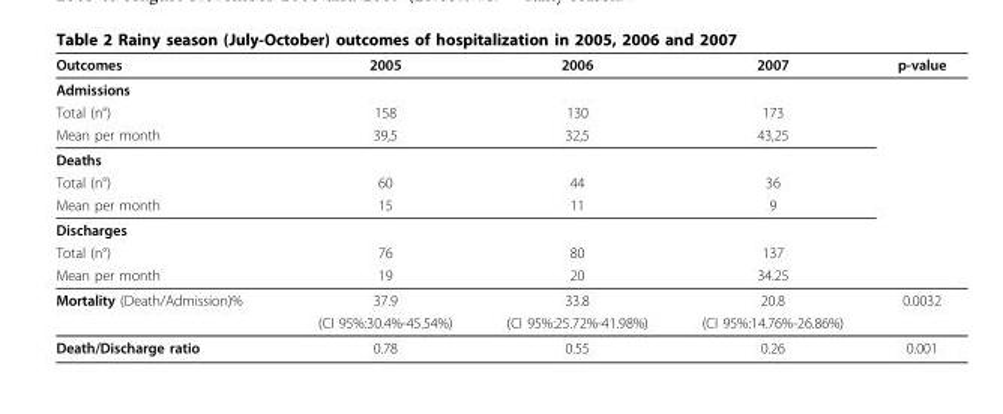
<table><thead><tr><td>Outcomes</td><td>2005</td><td>2006</td><td>2007</td><td>p-value</td></tr></thead><tbody><tr><td colspan="5">Admissions</td></tr><tr><td>Total (n°)</td><td>158</td><td>130</td><td>173</td><td></td></tr><tr><td>Mean per month</td><td>39,5</td><td>32,5</td><td>43,25</td><td></td></tr><tr><td colspan="5">Deaths</td></tr><tr><td>Total (n°)</td><td>60</td><td>44</td><td>36</td><td></td></tr><tr><td>Mean per month</td><td>15</td><td>11</td><td>9</td><td></td></tr><tr><td colspan="5">Discharges</td></tr><tr><td>Total (n°)</td><td>76</td><td>80</td><td>137</td><td></td></tr><tr><td>Mean per month</td><td>19</td><td>20</td><td>34.25</td><td></td></tr><tr><td rowspan="2">Mortality (Death/Admission)%</td><td>37.9</td><td>33.8</td><td>20.8</td><td>0.0032</td></tr><tr><td>(CI 95%:30.4%-45.54%)</td><td>(CI 95%:25.72%-41.98%)</td><td>(CI 95%:14.76%-26.86%)</td><td></td></tr><tr><td>Death/Discharge ratio</td><td>0.78</td><td>0.55</td><td>0.26</td><td>0.001</td></tr></tbody></table>